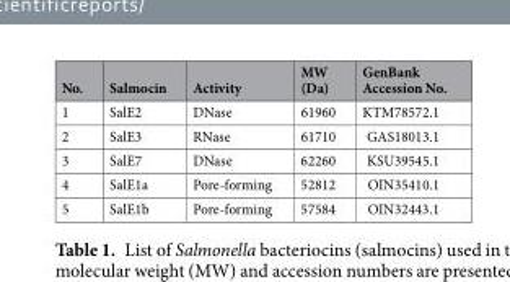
<table><thead><tr><td>No.</td><td>Salmocin</td><td>Activity</td><td>MW (Da)</td><td>GenBank Accession No.</td></tr></thead><tbody><tr><td>1</td><td>SalE2</td><td>DNase</td><td>61960</td><td>KTM78572.1</td></tr><tr><td>2</td><td>SalE3</td><td>RNase</td><td>61710</td><td>GAS18013.1</td></tr><tr><td>3</td><td>SalE7</td><td>DNase</td><td>62260</td><td>KSU39545.1</td></tr><tr><td>4</td><td>SalE1a</td><td>Pore-forming</td><td>52812</td><td>OIN35410.1</td></tr><tr><td>5</td><td>SalE1b</td><td>Pore-forming</td><td>57584</td><td>OIN32443.1</td></tr></tbody></table>